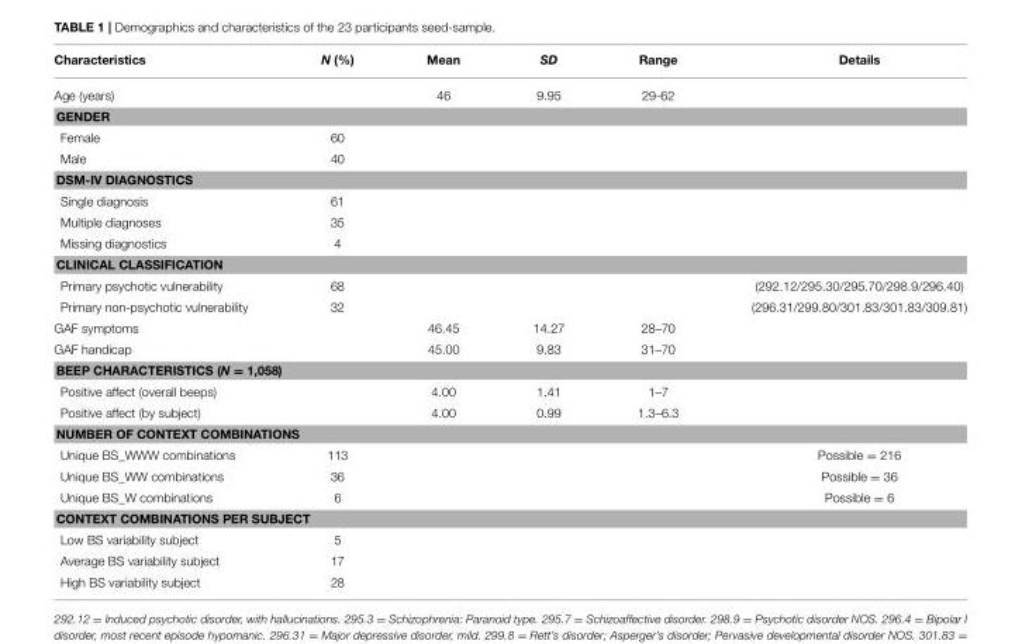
<table><thead><tr><td>Characteristics</td><td>N (%)</td><td>Mean</td><td>SD</td><td>Range</td><td>Details</td></tr></thead><tbody><tr><td>Age (years)</td><td></td><td>46</td><td>9.95</td><td>29-62</td><td></td></tr><tr><td colspan="6">GENDER</td></tr><tr><td>Female</td><td>60</td><td></td><td></td><td></td><td></td></tr><tr><td>Male</td><td>40</td><td></td><td></td><td></td><td></td></tr><tr><td colspan="6">DSM-IV DIAGNOSTICS</td></tr><tr><td>Single diagnosis</td><td>61</td><td></td><td></td><td></td><td></td></tr><tr><td>Multiple diagnoses</td><td>35</td><td></td><td></td><td></td><td></td></tr><tr><td>Missing diagnostics</td><td>4</td><td></td><td></td><td></td><td></td></tr><tr><td colspan="6">CLINICAL CLASSIFICATION</td></tr><tr><td>Primary psychotic vulnerability</td><td>68</td><td></td><td></td><td></td><td>(292.12/295.30/295.70/298.9/296.40)</td></tr><tr><td>Primary non-psychotic vulnerability</td><td>32</td><td></td><td></td><td></td><td>(296.31/299.80/301.83/301.83/309.81)</td></tr><tr><td>GAF symptoms</td><td></td><td>46.45</td><td>14.27</td><td>28–70</td><td></td></tr><tr><td>GAF handicap</td><td></td><td>45.00</td><td>9.83</td><td>31–70</td><td></td></tr><tr><td colspan="6">BEEP CHARACTERISTICS (N = 1,058)</td></tr><tr><td>Positive affect (overall beeps)</td><td></td><td>4.00</td><td>1.41</td><td>1–7</td><td></td></tr><tr><td>Positive affect (by subject)</td><td></td><td>4.00</td><td>0.99</td><td>1.3–6.3</td><td></td></tr><tr><td colspan="6">NUMBER OF CONTEXT COMBINATIONS</td></tr><tr><td>Unique BS_WWW combinations</td><td>113</td><td></td><td></td><td></td><td>Possible = 216</td></tr><tr><td>Unique BS_WW combinations</td><td>36</td><td></td><td></td><td></td><td>Possible = 36</td></tr><tr><td>Unique BS_W combinations</td><td>6</td><td></td><td></td><td></td><td>Possible = 6</td></tr><tr><td colspan="6">CONTEXT COMBINATIONS PER SUBJECT</td></tr><tr><td>Low BS variability subject</td><td>5</td><td></td><td></td><td></td><td></td></tr><tr><td>Average BS variability subject</td><td>17</td><td></td><td></td><td></td><td></td></tr><tr><td>High BS variability subject</td><td>28</td><td></td><td></td><td></td><td></td></tr></tbody></table>